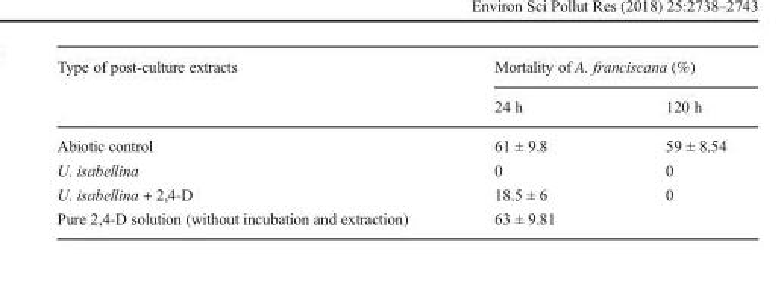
<table><thead><tr><td rowspan="2">Type of post-culture extracts</td><td colspan="2">Mortality of A. franciscana (%)</td></tr><tr><td>24 h</td><td>120 h</td></tr></thead><tbody><tr><td>Abiotic control</td><td>61 ± 9.8</td><td>59 ± 8.54</td></tr><tr><td>U. isabellina</td><td>0</td><td>0</td></tr><tr><td>U. isabellina + 2,4-D</td><td>18.5 ± 6</td><td>0</td></tr><tr><td>Pure 2,4-D solution (without incubation and extraction)</td><td colspan="2">63 ± 9.81</td></tr></tbody></table>